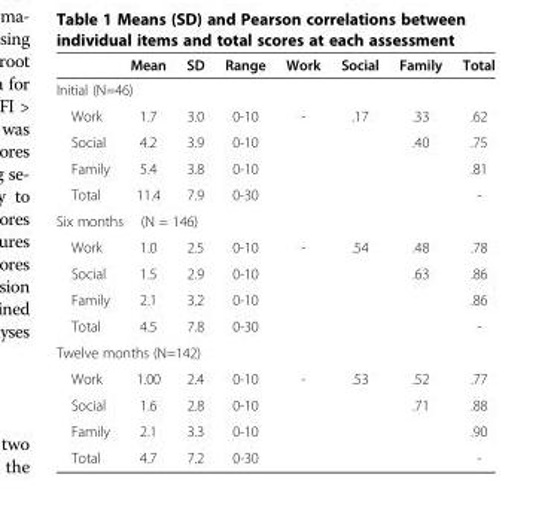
<table><thead><tr><td></td><td>Mean</td><td>SD</td><td>Range</td><td>Work</td><td>Social</td><td>Family</td><td>Total</td></tr></thead><tbody><tr><td colspan="8">Initial (N=46)</td></tr><tr><td>Work</td><td>1.7</td><td>3.0</td><td>0-10</td><td>-</td><td>.17</td><td>.33</td><td>.62</td></tr><tr><td>Social</td><td>4.2</td><td>3.9</td><td>0-10</td><td></td><td></td><td>.40</td><td>.75</td></tr><tr><td>Family</td><td>5.4</td><td>3.8</td><td>0-10</td><td></td><td></td><td></td><td>.81</td></tr><tr><td>Total</td><td>11.4</td><td>7.9</td><td>0-30</td><td></td><td></td><td></td><td>-</td></tr><tr><td colspan="8">Six months (N = 146)</td></tr><tr><td>Work</td><td>1.0</td><td>2.5</td><td>0-10</td><td>-</td><td>.54</td><td>.48</td><td>.78</td></tr><tr><td>Social</td><td>1.5</td><td>2.9</td><td>0-10</td><td></td><td></td><td>.63</td><td>.86</td></tr><tr><td>Family</td><td>2.1</td><td>3.2</td><td>0-10</td><td></td><td></td><td></td><td>.86</td></tr><tr><td>Total</td><td>4.5</td><td>7.8</td><td>0-30</td><td></td><td></td><td></td><td>-</td></tr><tr><td colspan="8">Twelve months (N=142)</td></tr><tr><td>Work</td><td>1.00</td><td>2.4</td><td>0-10</td><td>-</td><td>.53</td><td>.52</td><td>.77</td></tr><tr><td>Social</td><td>1.6</td><td>2.8</td><td>0-10</td><td></td><td></td><td>.71</td><td>.88</td></tr><tr><td>Family</td><td>2.1</td><td>3.3</td><td>0-10</td><td></td><td></td><td></td><td>.90</td></tr><tr><td>Total</td><td>4.7</td><td>7.2</td><td>0-30</td><td></td><td></td><td></td><td>-</td></tr></tbody></table>